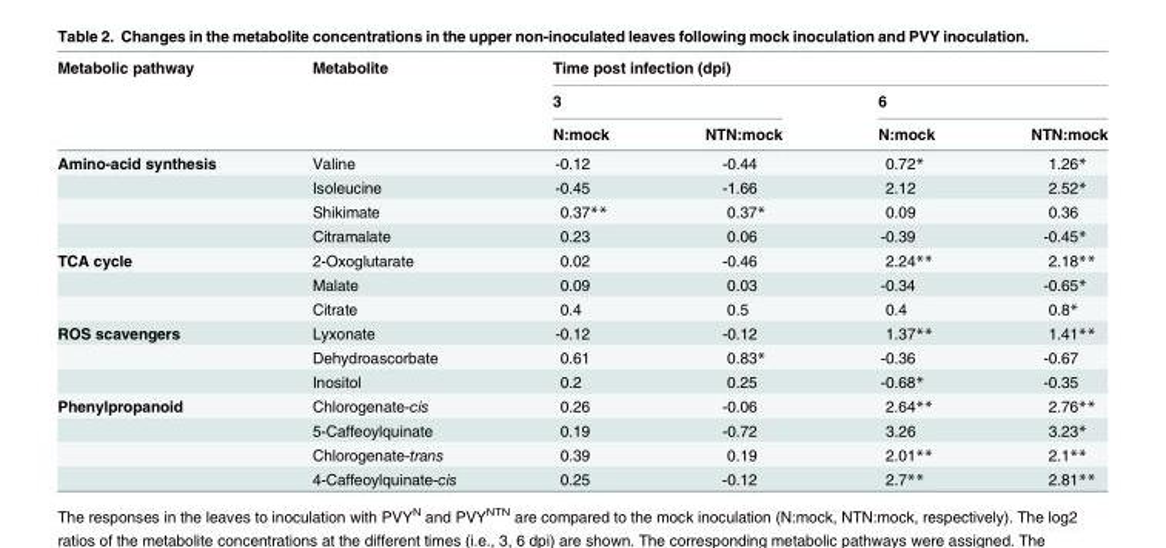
<table><thead><tr><td rowspan="3">Metabolic pathway</td><td rowspan="3">Metabolite</td><td colspan="4">Time post infection (dpi)</td></tr><tr><td colspan="2">3</td><td colspan="2">6</td></tr><tr><td>N:mock</td><td>NTN:mock</td><td>N:mock</td><td>NTN:mock</td></tr></thead><tbody><tr><td rowspan="4">Amino-acid synthesis</td><td>Valine</td><td>-0.12</td><td>-0.44</td><td>0.72*</td><td>1.26*</td></tr><tr><td>Isoleucine</td><td>-0.45</td><td>-1.66</td><td>2.12</td><td>2.52*</td></tr><tr><td>Shikimate</td><td>0.37**</td><td>0.37*</td><td>0.09</td><td>0.36</td></tr><tr><td>Citramalate</td><td>0.23</td><td>0.06</td><td>-0.39</td><td>-0.45*</td></tr><tr><td rowspan="3">TCA cycle</td><td>2-Oxoglutarate</td><td>0.02</td><td>-0.46</td><td>2.24**</td><td>2.18**</td></tr><tr><td>Malate</td><td>0.09</td><td>0.03</td><td>-0.34</td><td>-0.65*</td></tr><tr><td>Citrate</td><td>0.4</td><td>0.5</td><td>0.4</td><td>0.8*</td></tr><tr><td rowspan="3">ROS scavengers</td><td>Lyxonate</td><td>-0.12</td><td>-0.12</td><td>1.37**</td><td>1.41**</td></tr><tr><td>Dehydroascorbate</td><td>0.61</td><td>0.83*</td><td>-0.36</td><td>-0.67</td></tr><tr><td>Inositol</td><td>0.2</td><td>0.25</td><td>-0.68*</td><td>-0.35</td></tr><tr><td rowspan="4">Phenylpropanoid</td><td>Chlorogenate-cis</td><td>0.26</td><td>-0.06</td><td>2.64**</td><td>2.76**</td></tr><tr><td>5-Caffeoylquinate</td><td>0.19</td><td>-0.72</td><td>3.26</td><td>3.23*</td></tr><tr><td>Chlorogenate-trans</td><td>0.39</td><td>0.19</td><td>2.01**</td><td>2.1**</td></tr><tr><td>4-Caffeoylquinate-cis</td><td>0.25</td><td>-0.12</td><td>2.7**</td><td>2.81**</td></tr></tbody></table>